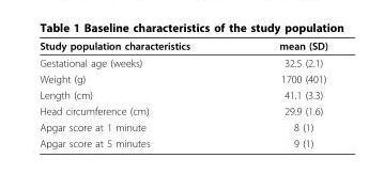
<table><thead><tr><td>Study population characteristics</td><td>mean (SD)</td></tr></thead><tbody><tr><td>Gestational age (weeks)</td><td>32.5 (2.1)</td></tr><tr><td>Weight (g)</td><td>1700 (401)</td></tr><tr><td>Length (cm)</td><td>41.1 (3.3)</td></tr><tr><td>Head circumference (cm)</td><td>29.9 (1.6)</td></tr><tr><td>Apgar score at 1 minute</td><td>8 (1)</td></tr><tr><td>Apgar score at 5 minutes</td><td>9 (1)</td></tr></tbody></table>